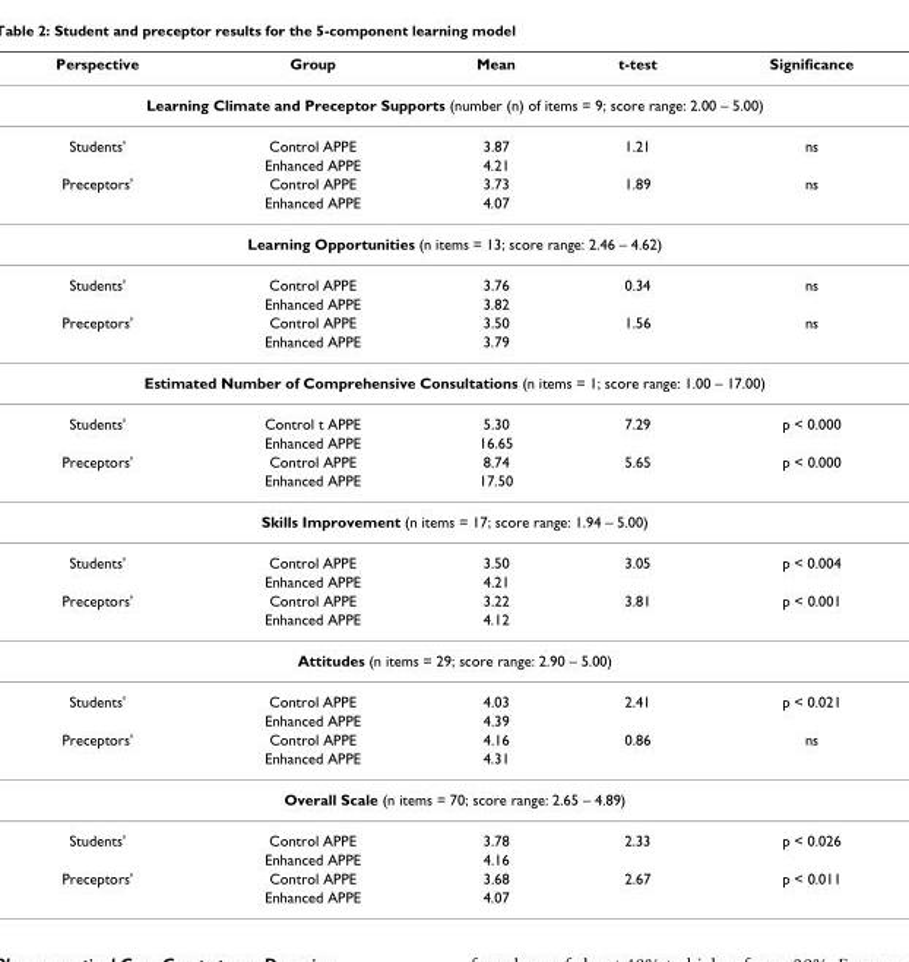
<table><thead><tr><td>Perspective</td><td>Group</td><td>Mean</td><td>t-test</td><td>Significance</td></tr></thead><tbody><tr><td colspan="5">Learning Climate and Preceptor Supports (number (n) of items = 9; score range: 2.00 – 5.00)</td></tr><tr><td rowspan="2">Students&#x27;</td><td>Control APPE</td><td>3.87</td><td>1.21</td><td>ns</td></tr><tr><td>Enhanced APPE</td><td>4.21</td><td></td><td></td></tr><tr><td rowspan="2">Preceptors&#x27;</td><td>Control APPE</td><td>3.73</td><td>1.89</td><td>ns</td></tr><tr><td>Enhanced APPE</td><td>4.07</td><td></td><td></td></tr><tr><td colspan="5">Learning Opportunities (n items = 13; score range: 2.46 – 4.62)</td></tr><tr><td rowspan="2">Students&#x27;</td><td>Control APPE</td><td>3.76</td><td>0.34</td><td>ns</td></tr><tr><td>Enhanced APPE</td><td>3.82</td><td></td><td></td></tr><tr><td rowspan="2">Preceptors&#x27;</td><td>Control APPE</td><td>3.50</td><td>1.56</td><td>ns</td></tr><tr><td>Enhanced APPE</td><td>3.79</td><td></td><td></td></tr><tr><td colspan="5">Estimated Number of Comprehensive Consultations (n items = 1; score range: 1.00 – 17.00)</td></tr><tr><td rowspan="2">Students&#x27;</td><td>Control t APPE</td><td>5.30</td><td>7.29</td><td>p &lt; 0.000</td></tr><tr><td>Enhanced APPE</td><td>16.65</td><td></td><td></td></tr><tr><td rowspan="2">Preceptors&#x27;</td><td>Control APPE</td><td>8.74</td><td>5.65</td><td>p &lt; 0.000</td></tr><tr><td>Enhanced APPE</td><td>17.50</td><td></td><td></td></tr><tr><td colspan="5">Skills Improvement (n items = 17; score range: 1.94 – 5.00)</td></tr><tr><td rowspan="2">Students&#x27;</td><td>Control APPE</td><td>3.50</td><td>3.05</td><td>p &lt; 0.004</td></tr><tr><td>Enhanced APPE</td><td>4.21</td><td></td><td></td></tr><tr><td rowspan="2">Preceptors&#x27;</td><td>Control APPE</td><td>3.22</td><td>3.81</td><td>p &lt; 0.001</td></tr><tr><td>Enhanced APPE</td><td>4.12</td><td></td><td></td></tr><tr><td colspan="5">Attitudes (n items = 29; score range: 2.90 – 5.00)</td></tr><tr><td rowspan="2">Students&#x27;</td><td>Control APPE</td><td>4.03</td><td>2.41</td><td>p &lt; 0.021</td></tr><tr><td>Enhanced APPE</td><td>4.39</td><td></td><td></td></tr><tr><td rowspan="2">Preceptors&#x27;</td><td>Control APPE</td><td>4.16</td><td>0.86</td><td>ns</td></tr><tr><td>Enhanced APPE</td><td>4.31</td><td></td><td></td></tr><tr><td colspan="5">Overall Scale (n items = 70; score range: 2.65 – 4.89)</td></tr><tr><td rowspan="2">Students&#x27;</td><td>Control APPE</td><td>3.78</td><td>2.33</td><td>p &lt; 0.026</td></tr><tr><td>Enhanced APPE</td><td>4.16</td><td></td><td></td></tr><tr><td rowspan="2">Preceptors&#x27;</td><td>Control APPE</td><td>3.68</td><td>2.67</td><td>p &lt; 0.011</td></tr><tr><td>Enhanced APPE</td><td>4.07</td><td></td><td></td></tr></tbody></table>